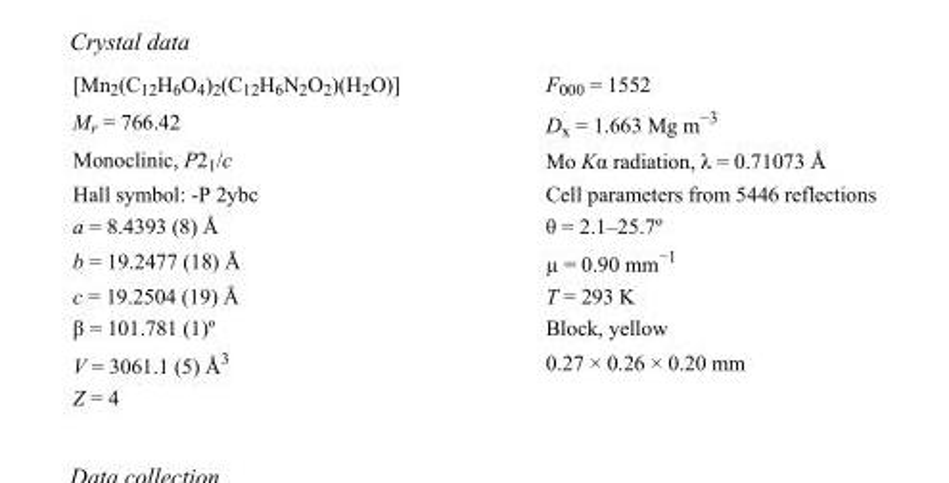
<table><tbody><tr><td>[Mn<sub>2</sub>(C<sub>12</sub>H<sub>6</sub>O<sub>4</sub>)<sub>2</sub>(C<sub>12</sub>H<sub>6</sub>N<sub>2</sub>O<sub>2</sub>)(H<sub>2</sub>O)]</td><td>F000 = 1552</td></tr><tr><td>M<sub>r</sub> = 766.42</td><td>D<sub>x</sub> = 1.663 Mg m<sup>−3</sup></td></tr><tr><td>Monoclinic, P2<sub>1</sub>/c</td><td>Mo Kα radiation, λ = 0.71073 Å</td></tr><tr><td>Hall symbol: -P 2ybc</td><td>Cell parameters from 5446 reflections</td></tr><tr><td>a = 8.4393 (8) Å</td><td>θ = 2.1–25.7º</td></tr><tr><td>b = 19.2477 (18) Å</td><td>µ = 0.90 mm<sup>−1</sup></td></tr><tr><td>c = 19.2504 (19) Å</td><td>T = 293 K</td></tr><tr><td>β = 101.781 (1)º</td><td>Block, yellow</td></tr><tr><td>V = 3061.1 (5) Å<sup>3</sup></td><td>0.27 × 0.26 × 0.20 mm</td></tr><tr><td>Z = 4</td><td></td></tr></tbody></table>